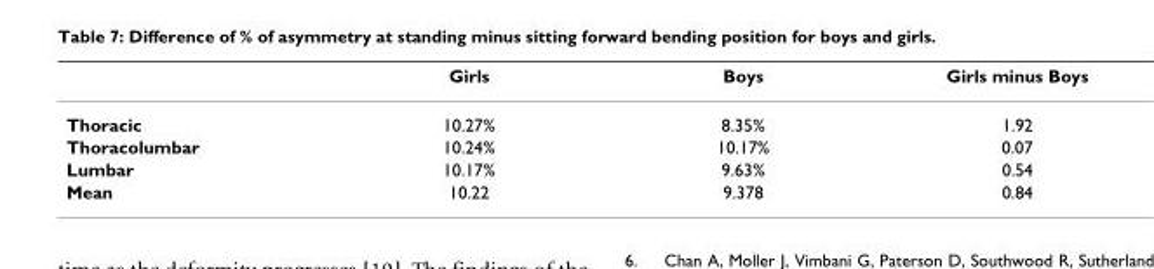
<table><thead><tr><td></td><td>Girls</td><td>Boys</td><td>Girls minus Boys</td></tr></thead><tbody><tr><td>Thoracic</td><td>10.27%</td><td>8.35%</td><td>1.92</td></tr><tr><td>Thoracolumbar</td><td>10.24%</td><td>10.17%</td><td>0.07</td></tr><tr><td>Lumbar</td><td>10.17%</td><td>9.63%</td><td>0.54</td></tr><tr><td>Mean</td><td>10.22</td><td>9.378</td><td>0.84</td></tr></tbody></table>